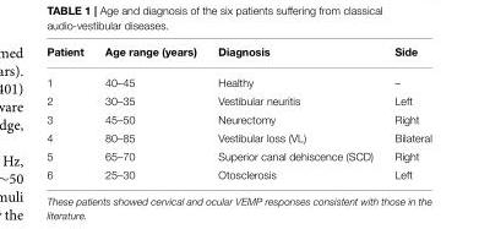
<table><thead><tr><td>Patient</td><td>Age range (years)</td><td>Diagnosis</td><td>Side</td></tr></thead><tbody><tr><td>1</td><td>40–45</td><td>Healthy</td><td>–</td></tr><tr><td>2</td><td>30–35</td><td>Vestibular neuritis</td><td>Left</td></tr><tr><td>3</td><td>45–50</td><td>Neurectomy</td><td>Right</td></tr><tr><td>4</td><td>80–85</td><td>Vestibular loss (VL)</td><td>Bilateral</td></tr><tr><td>5</td><td>65–70</td><td>Superior canal dehiscence (SCD)</td><td>Right</td></tr><tr><td>6</td><td>25–30</td><td>Otosclerosis</td><td>Left</td></tr></tbody></table>